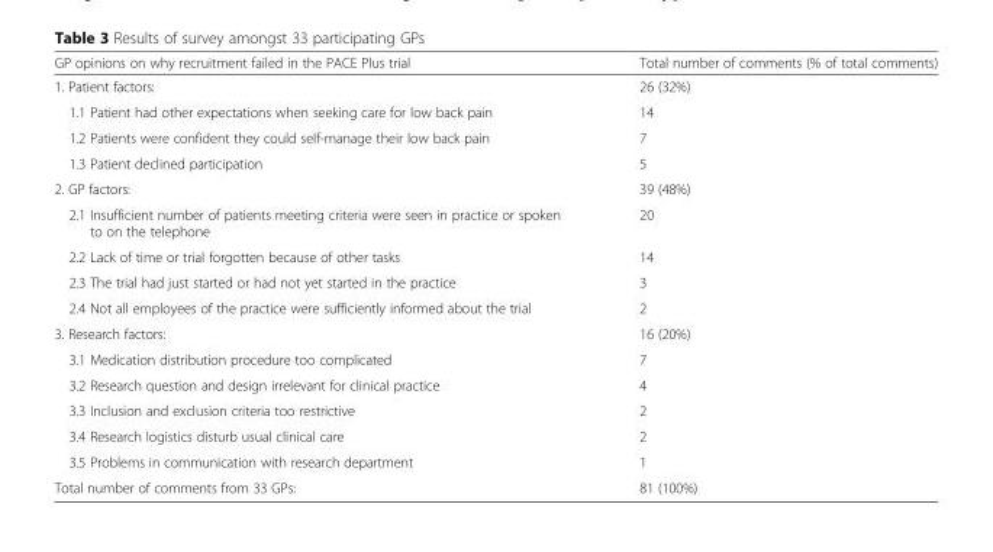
<table><thead><tr><td>GP opinions on why recruitment failed in the PACE Plus trial</td><td>Total number of comments (% of total comments)</td></tr></thead><tbody><tr><td>1. Patient factors:</td><td>26 (32%)</td></tr><tr><td>1.1 Patient had other expectations when seeking care for low back pain</td><td>14</td></tr><tr><td>1.2 Patients were confident they could self-manage their low back pain</td><td>7</td></tr><tr><td>1.3 Patient declined participation</td><td>5</td></tr><tr><td>2. GP factors:</td><td>39 (48%)</td></tr><tr><td>2.1 Insufficient number of patients meeting criteria were seen in practice or spoken to on the telephone</td><td>20</td></tr><tr><td>2.2 Lack of time or trial forgotten because of other tasks</td><td>14</td></tr><tr><td>2.3 The trial had just started or had not yet started in the practice</td><td>3</td></tr><tr><td>2.4 Not all employees of the practice were sufficiently informed about the trial</td><td>2</td></tr><tr><td>3. Research factors:</td><td>16 (20%)</td></tr><tr><td>3.1 Medication distribution procedure too complicated</td><td>7</td></tr><tr><td>3.2 Research question and design irrelevant for clinical practice</td><td>4</td></tr><tr><td>3.3 Inclusion and exclusion criteria too restrictive</td><td>2</td></tr><tr><td>3.4 Research logistics disturb usual clinical care</td><td>2</td></tr><tr><td>3.5 Problems in communication with research department</td><td>1</td></tr><tr><td>Total number of comments from 33 GPs:</td><td>81 (100%)</td></tr></tbody></table>